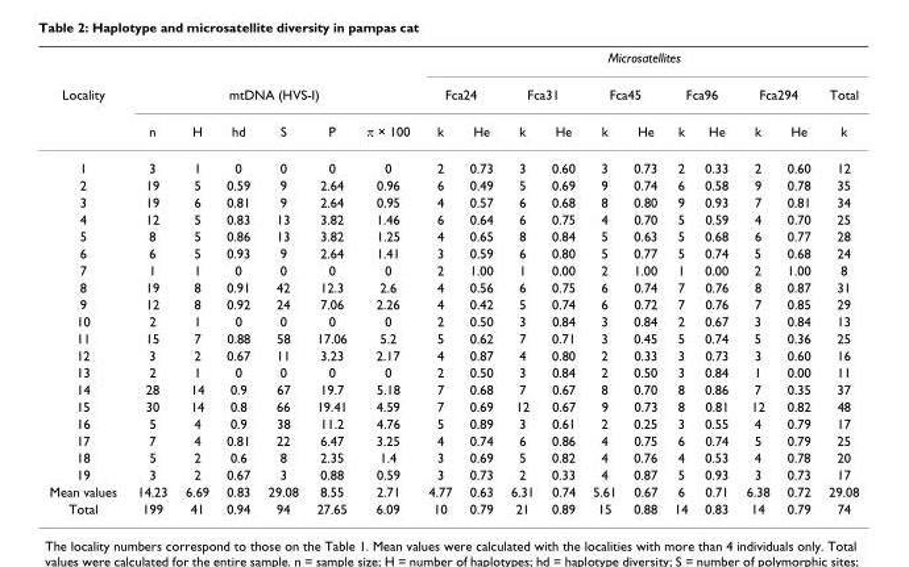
<table><thead><tr><td rowspan="3">Locality</td><td></td><td></td><td></td><td></td><td></td><td></td><td colspan="11">Microsatellites</td></tr><tr><td colspan="6">mtDNA (HVS-I)</td><td colspan="2">Fca24</td><td colspan="2">Fca31</td><td colspan="2">Fca45</td><td colspan="2">Fca96</td><td colspan="2">Fca294</td><td rowspan="2">Total k</td></tr><tr><td>n</td><td>H</td><td>hd</td><td>S</td><td>P</td><td>π × 100</td><td>k</td><td>He</td><td>k</td><td>He</td><td>k</td><td>He</td><td>k</td><td>He</td><td>k</td><td>He</td></tr></thead><tbody><tr><td>1</td><td>3</td><td>1</td><td>0</td><td>0</td><td>0</td><td>0</td><td>2</td><td>0.73</td><td>3</td><td>0.60</td><td>3</td><td>0.73</td><td>2</td><td>0.33</td><td>2</td><td>0.60</td><td>12</td></tr><tr><td>2</td><td>19</td><td>5</td><td>0.59</td><td>9</td><td>2.64</td><td>0.96</td><td>6</td><td>0.49</td><td>5</td><td>0.69</td><td>9</td><td>0.74</td><td>6</td><td>0.58</td><td>9</td><td>0.78</td><td>35</td></tr><tr><td>3</td><td>19</td><td>6</td><td>0.81</td><td>9</td><td>2.64</td><td>0.95</td><td>4</td><td>0.57</td><td>6</td><td>0.68</td><td>8</td><td>0.80</td><td>9</td><td>0.93</td><td>7</td><td>0.81</td><td>34</td></tr><tr><td>4</td><td>12</td><td>5</td><td>0.83</td><td>13</td><td>3.82</td><td>1.46</td><td>6</td><td>0.64</td><td>6</td><td>0.75</td><td>4</td><td>0.70</td><td>5</td><td>0.59</td><td>4</td><td>0.70</td><td>25</td></tr><tr><td>5</td><td>8</td><td>5</td><td>0.86</td><td>13</td><td>3.82</td><td>1.25</td><td>4</td><td>0.65</td><td>8</td><td>0.84</td><td>5</td><td>0.63</td><td>5</td><td>0.68</td><td>6</td><td>0.77</td><td>28</td></tr><tr><td>6</td><td>6</td><td>5</td><td>0.93</td><td>9</td><td>2.64</td><td>1.41</td><td>3</td><td>0.59</td><td>6</td><td>0.80</td><td>5</td><td>0.77</td><td>5</td><td>0.74</td><td>5</td><td>0.68</td><td>24</td></tr><tr><td>7</td><td>1</td><td>1</td><td>0</td><td>0</td><td>0</td><td>0</td><td>2</td><td>1.00</td><td>1</td><td>0.00</td><td>2</td><td>1.00</td><td>1</td><td>0.00</td><td>2</td><td>1.00</td><td>8</td></tr><tr><td>8</td><td>19</td><td>8</td><td>0.91</td><td>42</td><td>12.3</td><td>2.6</td><td>4</td><td>0.56</td><td>6</td><td>0.75</td><td>6</td><td>0.74</td><td>7</td><td>0.76</td><td>8</td><td>0.87</td><td>31</td></tr><tr><td>9</td><td>12</td><td>8</td><td>0.92</td><td>24</td><td>7.06</td><td>2.26</td><td>4</td><td>0.42</td><td>5</td><td>0.74</td><td>6</td><td>0.72</td><td>7</td><td>0.76</td><td>7</td><td>0.85</td><td>29</td></tr><tr><td>10</td><td>2</td><td>1</td><td>0</td><td>0</td><td>0</td><td>0</td><td>2</td><td>0.50</td><td>3</td><td>0.84</td><td>3</td><td>0.84</td><td>2</td><td>0.67</td><td>3</td><td>0.84</td><td>13</td></tr><tr><td>11</td><td>15</td><td>7</td><td>0.88</td><td>58</td><td>17.06</td><td>5.2</td><td>5</td><td>0.62</td><td>7</td><td>0.71</td><td>3</td><td>0.45</td><td>5</td><td>0.74</td><td>5</td><td>0.36</td><td>25</td></tr><tr><td>12</td><td>3</td><td>2</td><td>0.67</td><td>11</td><td>3.23</td><td>2.17</td><td>4</td><td>0.87</td><td>4</td><td>0.80</td><td>2</td><td>0.33</td><td>3</td><td>0.73</td><td>3</td><td>0.60</td><td>16</td></tr><tr><td>13</td><td>2</td><td>1</td><td>0</td><td>0</td><td>0</td><td>0</td><td>2</td><td>0.50</td><td>3</td><td>0.84</td><td>2</td><td>0.50</td><td>3</td><td>0.84</td><td>1</td><td>0.00</td><td>11</td></tr><tr><td>14</td><td>28</td><td>14</td><td>0.9</td><td>67</td><td>19.7</td><td>5.18</td><td>7</td><td>0.68</td><td>7</td><td>0.67</td><td>8</td><td>0.70</td><td>8</td><td>0.86</td><td>7</td><td>0.35</td><td>37</td></tr><tr><td>15</td><td>30</td><td>14</td><td>0.8</td><td>66</td><td>19.41</td><td>4.59</td><td>7</td><td>0.69</td><td>12</td><td>0.67</td><td>9</td><td>0.73</td><td>8</td><td>0.81</td><td>12</td><td>0.82</td><td>48</td></tr><tr><td>16</td><td>5</td><td>4</td><td>0.9</td><td>38</td><td>11.2</td><td>4.76</td><td>5</td><td>0.89</td><td>3</td><td>0.61</td><td>2</td><td>0.25</td><td>3</td><td>0.55</td><td>4</td><td>0.79</td><td>17</td></tr><tr><td>17</td><td>7</td><td>4</td><td>0.81</td><td>22</td><td>6.47</td><td>3.25</td><td>4</td><td>0.74</td><td>6</td><td>0.86</td><td>4</td><td>0.75</td><td>6</td><td>0.74</td><td>5</td><td>0.79</td><td>25</td></tr><tr><td>18</td><td>5</td><td>2</td><td>0.6</td><td>8</td><td>2.35</td><td>1.4</td><td>3</td><td>0.69</td><td>5</td><td>0.82</td><td>4</td><td>0.76</td><td>4</td><td>0.53</td><td>4</td><td>0.78</td><td>20</td></tr><tr><td>19</td><td>3</td><td>2</td><td>0.67</td><td>3</td><td>0.88</td><td>0.59</td><td>3</td><td>0.73</td><td>2</td><td>0.33</td><td>4</td><td>0.87</td><td>5</td><td>0.93</td><td>3</td><td>0.73</td><td>17</td></tr><tr><td>Mean values</td><td>14.23</td><td>6.69</td><td>0.83</td><td>29.08</td><td>8.55</td><td>2.71</td><td>4.77</td><td>0.63</td><td>6.31</td><td>0.74</td><td>5.61</td><td>0.67</td><td>6</td><td>0.71</td><td>6.38</td><td>0.72</td><td>29.08</td></tr><tr><td>Total</td><td>199</td><td>41</td><td>0.94</td><td>94</td><td>27.65</td><td>6.09</td><td>10</td><td>0.79</td><td>21</td><td>0.89</td><td>15</td><td>0.88</td><td>14</td><td>0.83</td><td>14</td><td>0.79</td><td>74</td></tr></tbody></table>